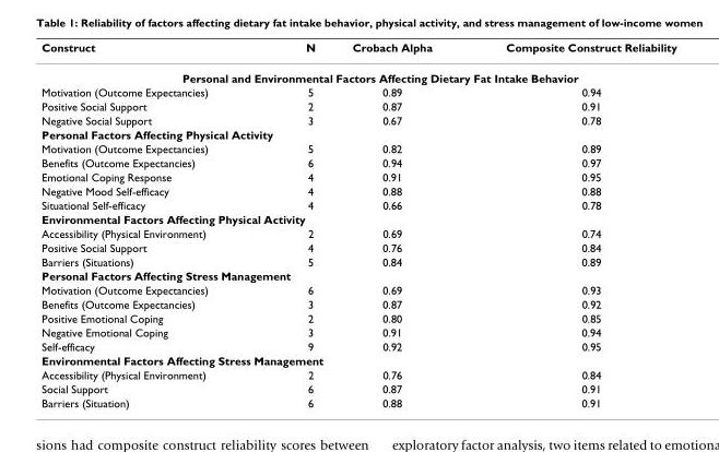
<table><thead><tr><td>Construct</td><td>N</td><td>Crobach Alpha</td><td>Composite Construct Reliability</td></tr></thead><tbody><tr><td colspan="4">Personal and Environmental Factors Affecting Dietary Fat Intake Behavior</td></tr><tr><td>Motivation (Outcome Expectancies)</td><td>5</td><td>0.89</td><td>0.94</td></tr><tr><td>Positive Social Support</td><td>2</td><td>0.87</td><td>0.91</td></tr><tr><td>Negative Social Support</td><td>3</td><td>0.67</td><td>0.78</td></tr><tr><td colspan="4">Personal Factors Affecting Physical Activity</td></tr><tr><td>Motivation (Outcome Expectancies)</td><td>5</td><td>0.82</td><td>0.89</td></tr><tr><td>Benefits (Outcome Expectancies)</td><td>6</td><td>0.94</td><td>0.97</td></tr><tr><td>Emotional Coping Response</td><td>4</td><td>0.91</td><td>0.95</td></tr><tr><td>Negative Mood Self-efficacy</td><td>4</td><td>0.88</td><td>0.88</td></tr><tr><td>Situational Self-efficacy</td><td>4</td><td>0.66</td><td>0.78</td></tr><tr><td colspan="4">Environmental Factors Affecting Physical Activity</td></tr><tr><td>Accessibility (Physical Environment)</td><td>2</td><td>0.69</td><td>0.74</td></tr><tr><td>Positive Social Support</td><td>4</td><td>0.76</td><td>0.84</td></tr><tr><td>Barriers (Situations)</td><td>5</td><td>0.84</td><td>0.89</td></tr><tr><td colspan="4">Personal Factors Affecting Stress Management</td></tr><tr><td>Motivation (Outcome Expectancies)</td><td>6</td><td>0.69</td><td>0.93</td></tr><tr><td>Benefits (Outcome Expectancies)</td><td>3</td><td>0.87</td><td>0.92</td></tr><tr><td>Positive Emotional Coping</td><td>2</td><td>0.80</td><td>0.85</td></tr><tr><td>Negative Emotional Coping</td><td>3</td><td>0.91</td><td>0.94</td></tr><tr><td>Self-efficacy</td><td>9</td><td>0.92</td><td>0.95</td></tr><tr><td colspan="4">Environmental Factors Affecting Stress Management</td></tr><tr><td>Accessibility (Physical Environment)</td><td>2</td><td>0.76</td><td>0.84</td></tr><tr><td>Social Support</td><td>6</td><td>0.87</td><td>0.91</td></tr><tr><td>Barriers (Situation)</td><td>6</td><td>0.88</td><td>0.91</td></tr></tbody></table>